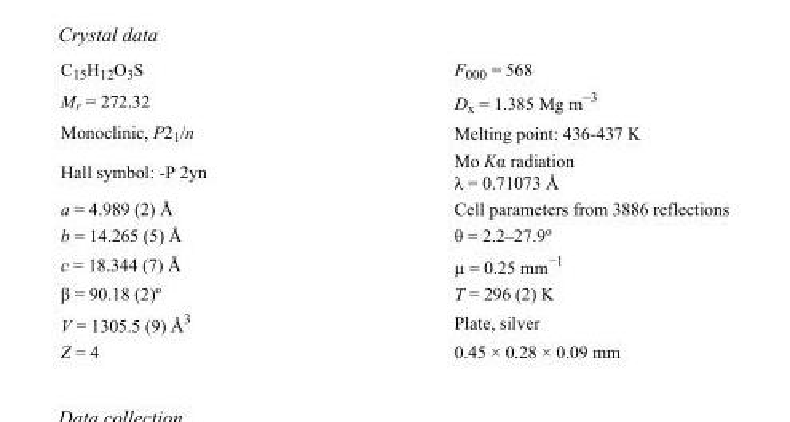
<table><tbody><tr><td>C<sub>15</sub>H<sub>12</sub>O<sub>3</sub>S</td><td>F<sub>000</sub> = 568</td></tr><tr><td>M<sub>r</sub> = 272.32</td><td>D<sub>x</sub> = 1.385 Mg m<sup>−3</sup></td></tr><tr><td>Monoclinic, P2<sub>1</sub>/n</td><td>Melting point= 436-437 K</td></tr><tr><td>Hall symbol: -P 2yn</td><td>Mo Kα radiation λ = 0.71073 Å</td></tr><tr><td>a = 4.989 (2) Å</td><td>Cell parameters from 3886 reflections</td></tr><tr><td>b = 14.265 (5) Å</td><td>θ = 2.2–27.9º</td></tr><tr><td>c = 18.344 (7) Å</td><td>µ = 0.25 mm<sup>−1</sup></td></tr><tr><td>β = 90.18 (2)º</td><td>T = 296 (2) K</td></tr><tr><td>V = 1305.5 (9) Å<sup>3</sup></td><td>Plate, silver</td></tr><tr><td>Z = 4</td><td>0.45 × 0.28 × 0.09 mm</td></tr></tbody></table>